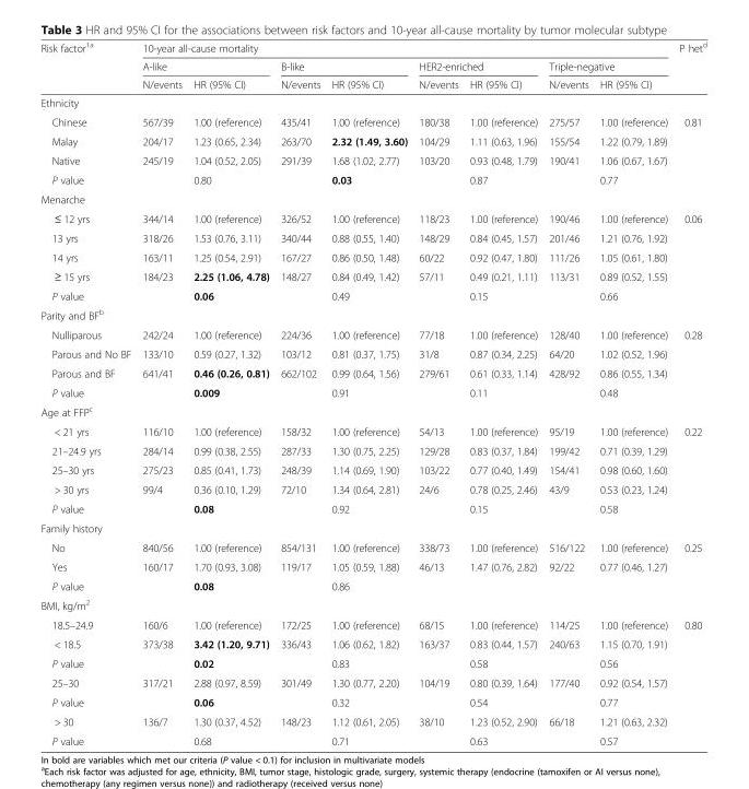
<table><thead><tr><td rowspan="3">Risk factor<sup>1a</sup></td><td colspan="8">10-year all-cause mortality</td><td rowspan="3">P het<sup>d</sup></td></tr><tr><td colspan="2">A-like</td><td colspan="2">B-like</td><td colspan="2">HER2-enriched</td><td colspan="2">Triple-negative</td></tr><tr><td>N/events</td><td>HR (95% CI)</td><td>N/events</td><td>HR (95% CI)</td><td>N/events</td><td>HR (95% CI)</td><td>N/events</td><td>HR (95% CI)</td></tr></thead><tbody><tr><td colspan="10">Ethnicity</td></tr><tr><td>Chinese</td><td>567/39</td><td>1.00 (reference)</td><td>435/41</td><td>1.00 (reference)</td><td>180/38</td><td>1.00 (reference)</td><td>275/57</td><td>1.00 (reference)</td><td>0.81</td></tr><tr><td>Malay</td><td>204/17</td><td>1.23 (0.65, 2.34)</td><td>263/70</td><td>2.32 (1.49, 3.60)</td><td>104/29</td><td>1.11 (0.63, 1.96)</td><td>155/54</td><td>1.22 (0.79, 1.89)</td><td></td></tr><tr><td>Native</td><td>245/19</td><td>1.04 (0.52, 2.05)</td><td>291/39</td><td>1.68 (1.02, 2.77)</td><td>103/20</td><td>0.93 (0.48, 1.79)</td><td>190/41</td><td>1.06 (0.67, 1.67)</td><td></td></tr><tr><td>P value</td><td></td><td>0.80</td><td></td><td>0.03</td><td></td><td>0.87</td><td></td><td>0.77</td><td></td></tr><tr><td colspan="10">Menarche</td></tr><tr><td>≤ 12 yrs</td><td>344/14</td><td>1.00 (reference)</td><td>326/52</td><td>1.00 (reference)</td><td>118/23</td><td>1.00 (reference)</td><td>190/46</td><td>1.00 (reference)</td><td>0.06</td></tr><tr><td>13 yrs</td><td>318/26</td><td>1.53 (0.76, 3.11)</td><td>340/44</td><td>0.88 (0.55, 1.40)</td><td>148/29</td><td>0.84 (0.45, 1.57)</td><td>201/46</td><td>1.21 (0.76, 1.92)</td><td></td></tr><tr><td>14 yrs</td><td>163/11</td><td>1.25 (0.54, 2.91)</td><td>167/27</td><td>0.86 (0.50, 1.48)</td><td>60/22</td><td>0.92 (0.47, 1.80)</td><td>111/26</td><td>1.05 (0.61, 1.80)</td><td></td></tr><tr><td>≥ 15 yrs</td><td>184/23</td><td>2.25 (1.06, 4.78)</td><td>148/27</td><td>0.84 (0.49, 1.42)</td><td>57/11</td><td>0.49 (0.21, 1.11)</td><td>113/31</td><td>0.89 (0.52, 1.55)</td><td></td></tr><tr><td>P value</td><td></td><td>0.06</td><td></td><td>0.49</td><td></td><td>0.15</td><td></td><td>0.66</td><td></td></tr><tr><td colspan="10">Parity and BF<sup>b</sup></td></tr><tr><td>Nulliparous</td><td>242/24</td><td>1.00 (reference)</td><td>224/36</td><td>1.00 (reference)</td><td>77/18</td><td>1.00 (reference)</td><td>128/40</td><td>1.00 (reference)</td><td>0.28</td></tr><tr><td>Parous and No BF</td><td>133/10</td><td>0.59 (0.27, 1.32)</td><td>103/12</td><td>0.81 (0.37, 1.75)</td><td>31/8</td><td>0.87 (0.34, 2.25)</td><td>64/20</td><td>1.02 (0.52, 1.96)</td><td></td></tr><tr><td>Parous and BF</td><td>641/41</td><td>0.46 (0.26, 0.81)</td><td>662/102</td><td>0.99 (0.64, 1.56)</td><td>279/61</td><td>0.61 (0.33, 1.14)</td><td>428/92</td><td>0.86 (0.55, 1.34)</td><td></td></tr><tr><td>P value</td><td></td><td>0.009</td><td></td><td>0.91</td><td></td><td>0.11</td><td></td><td>0.48</td><td></td></tr><tr><td colspan="10">Age at FFP<sup>c</sup></td></tr><tr><td>&lt; 21 yrs</td><td>116/10</td><td>1.00 (reference)</td><td>158/32</td><td>1.00 (reference)</td><td>54/13</td><td>1.00 (reference)</td><td>95/19</td><td>1.00 (reference)</td><td>0.22</td></tr><tr><td>21–24.9 yrs</td><td>284/14</td><td>0.99 (0.38, 2.55)</td><td>287/33</td><td>1.30 (0.75, 2.25)</td><td>129/28</td><td>0.83 (0.37, 1.84)</td><td>199/42</td><td>0.71 (0.39, 1.29)</td><td></td></tr><tr><td>25–30 yrs</td><td>275/23</td><td>0.85 (0.41, 1.73)</td><td>248/39</td><td>1.14 (0.69, 1.90)</td><td>103/22</td><td>0.77 (0.40, 1.49)</td><td>154/41</td><td>0.98 (0.60, 1.60)</td><td></td></tr><tr><td>&gt; 30 yrs</td><td>99/4</td><td>0.36 (0.10, 1.29)</td><td>72/10</td><td>1.34 (0.64, 2.81)</td><td>24/6</td><td>0.78 (0.25, 2.46)</td><td>43/9</td><td>0.53 (0.23, 1.24)</td><td></td></tr><tr><td>P value</td><td></td><td>0.08</td><td></td><td>0.92</td><td></td><td>0.15</td><td></td><td>0.58</td><td></td></tr><tr><td colspan="10">Family history</td></tr><tr><td>No</td><td>840/56</td><td>1.00 (reference)</td><td>854/131</td><td>1.00 (reference)</td><td>338/73</td><td>1.00 (reference)</td><td>516/122</td><td>1.00 (reference)</td><td>0.25</td></tr><tr><td>Yes</td><td>160/17</td><td>1.70 (0.93, 3.08)</td><td>119/17</td><td>1.05 (0.59, 1.88)</td><td>46/13</td><td>1.47 (0.76, 2.82)</td><td>92/22</td><td>0.77 (0.46, 1.27)</td><td></td></tr><tr><td>P value</td><td></td><td>0.08</td><td></td><td>0.86</td><td></td><td></td><td></td><td></td><td></td></tr><tr><td colspan="10">BMI, kg/m<sup>2</sup></td></tr><tr><td>18.5–24.9</td><td>160/6</td><td>1.00 (reference)</td><td>172/25</td><td>1.00 (reference)</td><td>68/15</td><td>1.00 (reference)</td><td>114/25</td><td>1.00 (reference)</td><td>0.80</td></tr><tr><td>&lt; 18.5</td><td>373/38</td><td>3.42 (1.20, 9.71)</td><td>336/43</td><td>1.06 (0.62, 1.82)</td><td>163/37</td><td>0.83 (0.44, 1.57)</td><td>240/63</td><td>1.15 (0.70, 1.91)</td><td></td></tr><tr><td>P value</td><td></td><td>0.02</td><td></td><td>0.83</td><td></td><td>0.58</td><td></td><td>0.56</td><td></td></tr><tr><td>25–30</td><td>317/21</td><td>2.88 (0.97, 8.59)</td><td>301/49</td><td>1.30 (0.77, 2.20)</td><td>104/19</td><td>0.80 (0.39, 1.64)</td><td>177/40</td><td>0.92 (0.54, 1.57)</td><td></td></tr><tr><td>P value</td><td></td><td>0.06</td><td></td><td>0.32</td><td></td><td>0.54</td><td></td><td>0.77</td><td></td></tr><tr><td>&gt; 30</td><td>136/7</td><td>1.30 (0.37, 4.52)</td><td>148/23</td><td>1.12 (0.61, 2.05)</td><td>38/10</td><td>1.23 (0.52, 2.90)</td><td>66/18</td><td>1.21 (0.63, 2.32)</td><td></td></tr><tr><td>P value</td><td></td><td>0.68</td><td></td><td>0.71</td><td></td><td>0.63</td><td></td><td>0.57</td><td></td></tr></tbody></table>